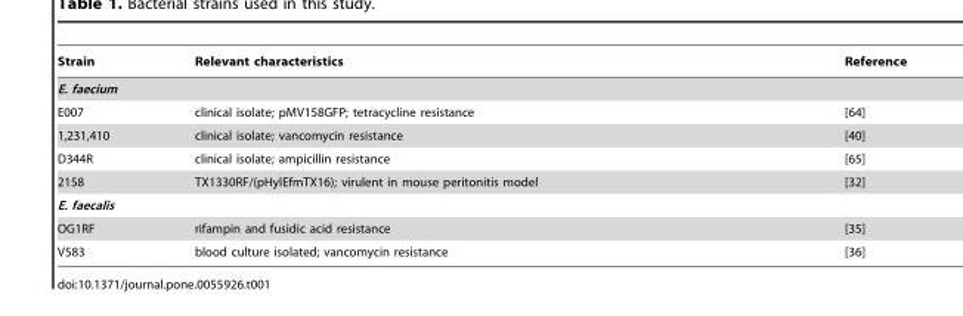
<table><thead><tr><td>Strain</td><td>Relevant characteristics</td><td>Reference</td></tr></thead><tbody><tr><td colspan="3">E. faecium</td></tr><tr><td>E007</td><td>clinical isolate; pMV158GFP; tetracycline resistance</td><td>[64]</td></tr><tr><td>1,231,410</td><td>clinical isolate; vancomycin resistance</td><td>[40]</td></tr><tr><td>D344R</td><td>clinical isolate; ampicillin resistance</td><td>[65]</td></tr><tr><td>2158</td><td>TX1330RF/(pHylEfmTX16); virulent in mouse peritonitis model</td><td>[32]</td></tr><tr><td colspan="3">E. faecalis</td></tr><tr><td>OG1RF</td><td>rifampin and fusidic acid resistance</td><td>[35]</td></tr><tr><td>V583</td><td>blood culture isolated; vancomycin resistance</td><td>[36]</td></tr></tbody></table>